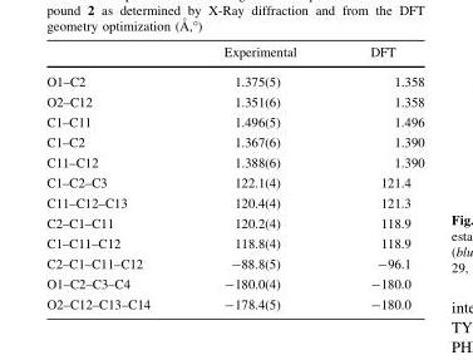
<table><thead><tr><td></td><td>Experimental</td><td>DFT</td></tr></thead><tbody><tr><td>O1–C2</td><td>1.375(5)</td><td>1.358</td></tr><tr><td>O2–C12</td><td>1.351(6)</td><td>1.358</td></tr><tr><td>C1–C11</td><td>1.496(5)</td><td>1.496</td></tr><tr><td>C1–C2</td><td>1.367(6)</td><td>1.390</td></tr><tr><td>C11–C12</td><td>1.388(6)</td><td>1.390</td></tr><tr><td>C1–C2–C3</td><td>122.1(4)</td><td>121.4</td></tr><tr><td>C11–C12–C13</td><td>120.4(4)</td><td>121.3</td></tr><tr><td>C2–C1–C11</td><td>120.2(4)</td><td>118.9</td></tr><tr><td>C1–C11–C12</td><td>118.8(4)</td><td>118.9</td></tr><tr><td>C2–C1–C11–C12</td><td>-88.8(5)</td><td>-96.1</td></tr><tr><td>O1–C2–C3–C4</td><td>-180.0(4)</td><td>-180.0</td></tr><tr><td>O2–C12–C13–C14</td><td>-178.4(5)</td><td>-180.0</td></tr></tbody></table>